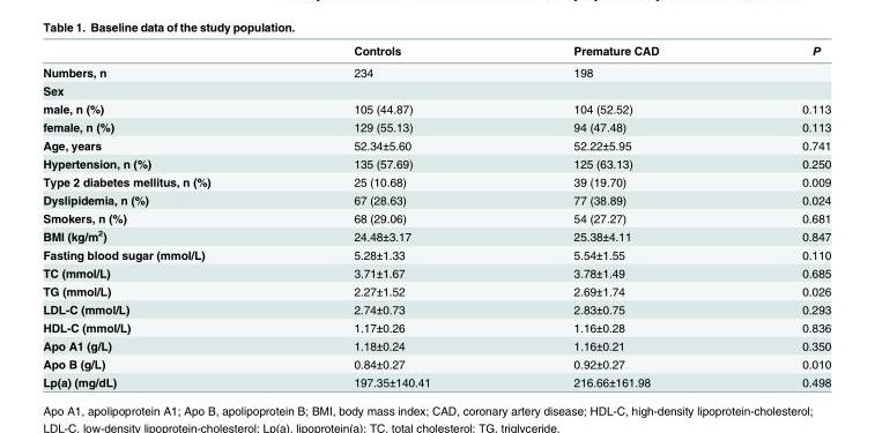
<table><thead><tr><td></td><td>Controls</td><td>Premature CAD</td><td>P</td></tr></thead><tbody><tr><td>Numbers, n</td><td>234</td><td>198</td><td></td></tr><tr><td colspan="4">Sex</td></tr><tr><td>male, n (%)</td><td>105 (44.87)</td><td>104 (52.52)</td><td>0.113</td></tr><tr><td>female, n (%)</td><td>129 (55.13)</td><td>94 (47.48)</td><td>0.113</td></tr><tr><td>Age, years</td><td>52.34±5.60</td><td>52.22±5.95</td><td>0.741</td></tr><tr><td>Hypertension, n (%)</td><td>135 (57.69)</td><td>125 (63.13)</td><td>0.250</td></tr><tr><td>Type 2 diabetes mellitus, n (%)</td><td>25 (10.68)</td><td>39 (19.70)</td><td>0.009</td></tr><tr><td>Dyslipidemia, n (%)</td><td>67 (28.63)</td><td>77 (38.89)</td><td>0.024</td></tr><tr><td>Smokers, n (%)</td><td>68 (29.06)</td><td>54 (27.27)</td><td>0.681</td></tr><tr><td>BMI (kg/m<sup>2</sup>)</td><td>24.48±3.17</td><td>25.38±4.11</td><td>0.847</td></tr><tr><td>Fasting blood sugar (mmol/L)</td><td>5.28±1.33</td><td>5.54±1.55</td><td>0.110</td></tr><tr><td>TC (mmol/L)</td><td>3.71±1.67</td><td>3.78±1.49</td><td>0.685</td></tr><tr><td>TG (mmol/L)</td><td>2.27±1.52</td><td>2.69±1.74</td><td>0.026</td></tr><tr><td>LDL-C (mmol/L)</td><td>2.74±0.73</td><td>2.83±0.75</td><td>0.293</td></tr><tr><td>HDL-C (mmol/L)</td><td>1.17±0.26</td><td>1.16±0.28</td><td>0.836</td></tr><tr><td>Apo A1 (g/L)</td><td>1.18±0.24</td><td>1.16±0.21</td><td>0.350</td></tr><tr><td>Apo B (g/L)</td><td>0.84±0.27</td><td>0.92±0.27</td><td>0.010</td></tr><tr><td>Lp(a) (mg/dL)</td><td>197.35±140.41</td><td>216.66±161.98</td><td>0.498</td></tr></tbody></table>